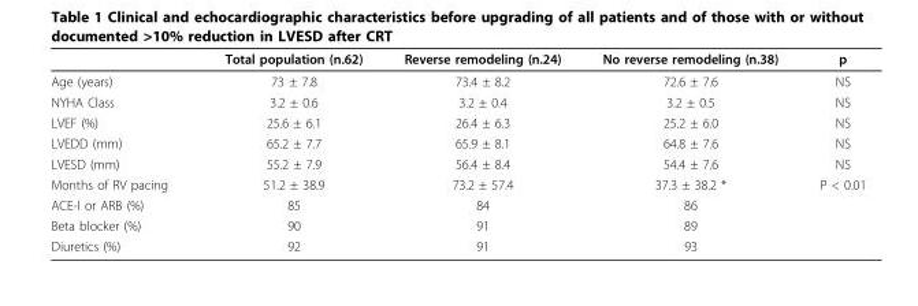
<table><thead><tr><td></td><td>Total population (n.62)</td><td>Reverse remodeling (n.24)</td><td>No reverse remodeling (n.38)</td><td>p</td></tr></thead><tbody><tr><td>Age (years)</td><td>73 ± 7.8</td><td>73.4 ± 8.2</td><td>72.6 ± 7.6</td><td>NS</td></tr><tr><td>NYHA Class</td><td>3.2 ± 0.6</td><td>3.2 ± 0.4</td><td>3.2 ± 0.5</td><td>NS</td></tr><tr><td>LVEF (%)</td><td>25.6 ± 6.1</td><td>26.4 ± 6.3</td><td>25.2 ± 6.0</td><td>NS</td></tr><tr><td>LVEDD (mm)</td><td>65.2 ± 7.7</td><td>65.9 ± 8.1</td><td>64.8 ± 7.6</td><td>NS</td></tr><tr><td>LVESD (mm)</td><td>55.2 ± 7.9</td><td>56.4 ± 8.4</td><td>54.4 ± 7.6</td><td>NS</td></tr><tr><td>Months of RV pacing</td><td>51.2 ± 38.9</td><td>73.2 ± 57.4</td><td>37.3 ± 38.2 *</td><td>P &lt; 0.01</td></tr><tr><td>ACE-I or ARB (%)</td><td>85</td><td>84</td><td>86</td><td></td></tr><tr><td>Beta blocker (%)</td><td>90</td><td>91</td><td>89</td><td></td></tr><tr><td>Diuretics (%)</td><td>92</td><td>91</td><td>93</td><td></td></tr></tbody></table>